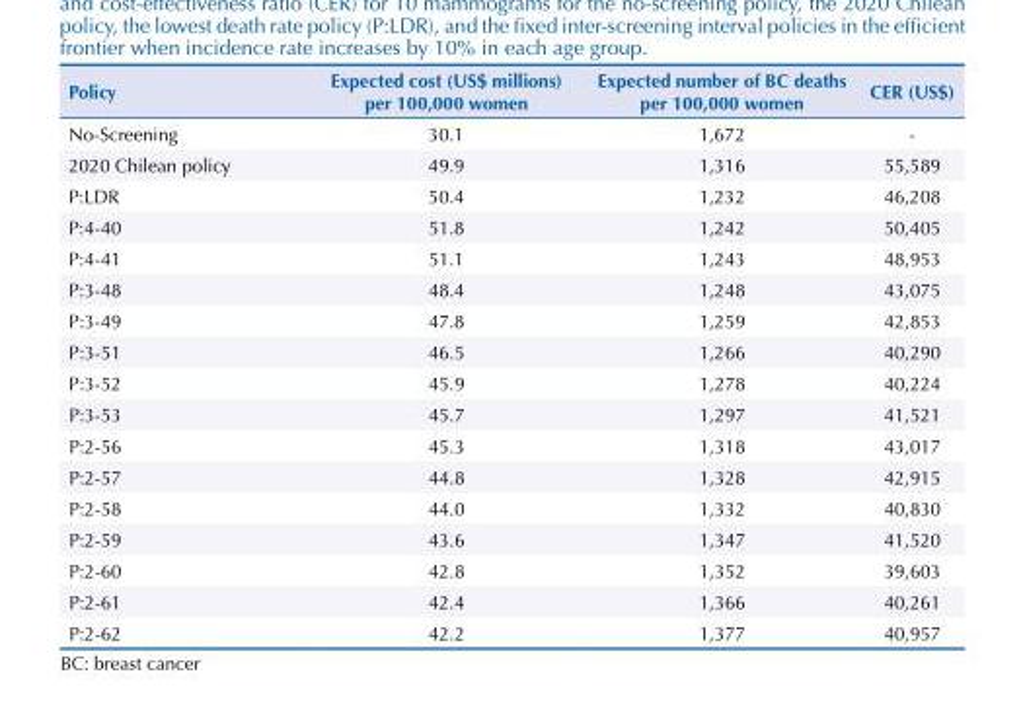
<table><thead><tr><td>Policy</td><td>Expected cost (US$ millions) per 100,000 women</td><td>Expected number of BC deaths per 100,000 women</td><td>CER (US$)</td></tr></thead><tbody><tr><td>No-Screening</td><td>30.1</td><td>1,672</td><td>-</td></tr><tr><td>2020 Chilean policy</td><td>49.9</td><td>1,316</td><td>55,589</td></tr><tr><td>P:LDR</td><td>50.4</td><td>1,232</td><td>46,208</td></tr><tr><td>P:4-40</td><td>51.8</td><td>1,242</td><td>50,405</td></tr><tr><td>P:4-41</td><td>51.1</td><td>1,243</td><td>48,953</td></tr><tr><td>P:3-48</td><td>48.4</td><td>1,248</td><td>43,075</td></tr><tr><td>P:3-49</td><td>47.8</td><td>1,259</td><td>42,853</td></tr><tr><td>P:3-51</td><td>46.5</td><td>1,266</td><td>40,290</td></tr><tr><td>P:3-52</td><td>45.9</td><td>1,278</td><td>40,224</td></tr><tr><td>P:3-53</td><td>45.7</td><td>1,297</td><td>41,521</td></tr><tr><td>P:2-56</td><td>45.3</td><td>1,318</td><td>43,017</td></tr><tr><td>P:2-57</td><td>44.8</td><td>1,328</td><td>42,915</td></tr><tr><td>P:2-58</td><td>44.0</td><td>1,332</td><td>40,830</td></tr><tr><td>P:2-59</td><td>43.6</td><td>1,347</td><td>41,520</td></tr><tr><td>P:2-60</td><td>42.8</td><td>1,352</td><td>39,603</td></tr><tr><td>P:2-61</td><td>42.4</td><td>1,366</td><td>40,261</td></tr><tr><td>P:2-62</td><td>42.2</td><td>1,377</td><td>40,957</td></tr></tbody></table>